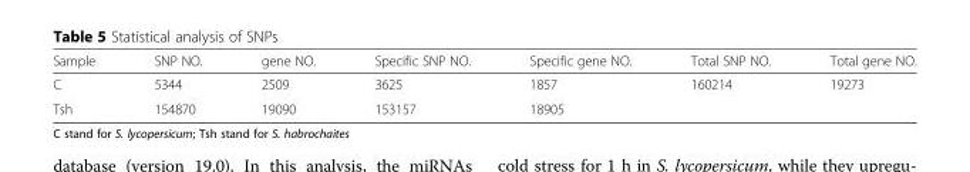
<table><thead><tr><td>Sample</td><td>SNP NO.</td><td>gene NO.</td><td>Specific SNP NO.</td><td>Specific gene NO.</td><td>Total SNP NO.</td><td>Total gene NO.</td></tr></thead><tbody><tr><td>C</td><td>5344</td><td>2509</td><td>3625</td><td>1857</td><td rowspan="2">160214</td><td rowspan="2">19273</td></tr><tr><td>Tsh</td><td>154870</td><td>19090</td><td>153157</td><td>18905</td></tr></tbody></table>